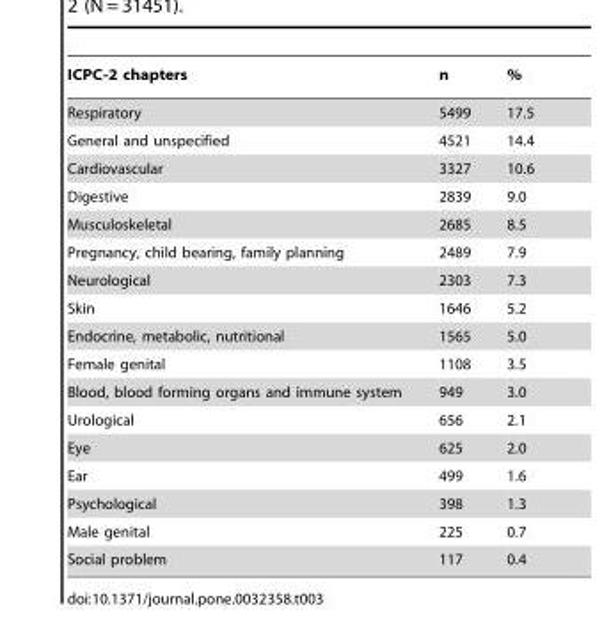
<table><thead><tr><td>ICPC-2 chapters</td><td>n</td><td>%</td></tr></thead><tbody><tr><td>Respiratory</td><td>5499</td><td>17.5</td></tr><tr><td>General and unspecified</td><td>4521</td><td>14.4</td></tr><tr><td>Cardiovascular</td><td>3327</td><td>10.6</td></tr><tr><td>Digestive</td><td>2839</td><td>9.0</td></tr><tr><td>Musculoskeletal</td><td>2685</td><td>8.5</td></tr><tr><td>Pregnancy, child bearing, family planning</td><td>2489</td><td>7.9</td></tr><tr><td>Neurological</td><td>2303</td><td>7.3</td></tr><tr><td>Skin</td><td>1646</td><td>5.2</td></tr><tr><td>Endocrine, metabolic, nutritional</td><td>1565</td><td>5.0</td></tr><tr><td>Female genital</td><td>1108</td><td>3.5</td></tr><tr><td>Blood, blood forming organs and immune system</td><td>949</td><td>3.0</td></tr><tr><td>Urological</td><td>656</td><td>2.1</td></tr><tr><td>Eye</td><td>625</td><td>2.0</td></tr><tr><td>Ear</td><td>499</td><td>1.6</td></tr><tr><td>Psychological</td><td>398</td><td>1.3</td></tr><tr><td>Male genital</td><td>225</td><td>0.7</td></tr><tr><td>Social problem</td><td>117</td><td>0.4</td></tr></tbody></table>